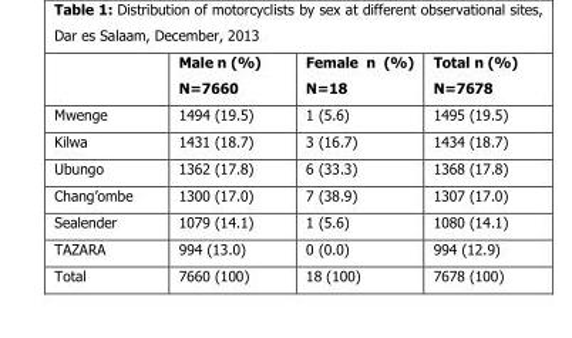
<table><thead><tr><td></td><td>Male n (%) N=7660</td><td>Female n (%) N=18</td><td>Total n (%) N=7678</td></tr></thead><tbody><tr><td>Mwenge</td><td>1494 (19.5)</td><td>1 (5.6)</td><td>1495 (19.5)</td></tr><tr><td>Kilwa</td><td>1431 (18.7)</td><td>3 (16.7)</td><td>1434 (18.7)</td></tr><tr><td>Ubungo</td><td>1362 (17.8)</td><td>6 (33.3)</td><td>1368 (17.8)</td></tr><tr><td>Chang’ombe</td><td>1300 (17.0)</td><td>7 (38.9)</td><td>1307 (17.0)</td></tr><tr><td>Sealender</td><td>1079 (14.1)</td><td>1 (5.6)</td><td>1080 (14.1)</td></tr><tr><td>TAZARA</td><td>994 (13.0)</td><td>0 (0.0)</td><td>994 (12.9)</td></tr><tr><td>Total</td><td>7660 (100)</td><td>18 (100)</td><td>7678 (100)</td></tr></tbody></table>